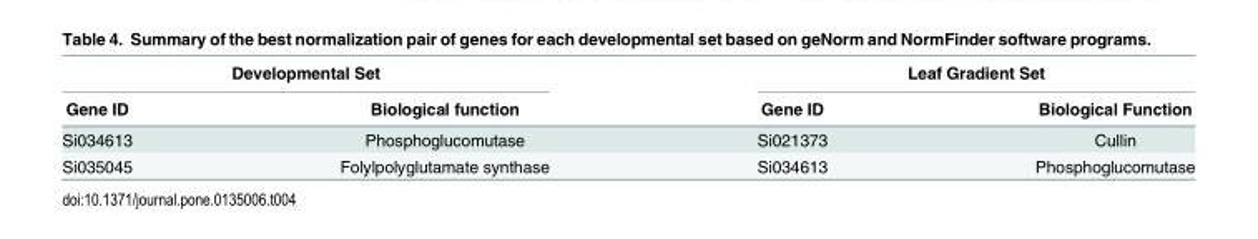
<table><thead><tr><td colspan="2">Developmental Set</td><td colspan="2">Leaf Gradient Set</td></tr><tr><td>Gene ID</td><td>Biological function</td><td>Gene ID</td><td>Biological Function</td></tr></thead><tbody><tr><td>Si034613</td><td>Phosphoglucomutase</td><td>Si021373</td><td>Cullin</td></tr><tr><td>Si035045</td><td>Folylpolyglutamate synthase</td><td>Si034613</td><td>Phosphoglucomutase</td></tr></tbody></table>